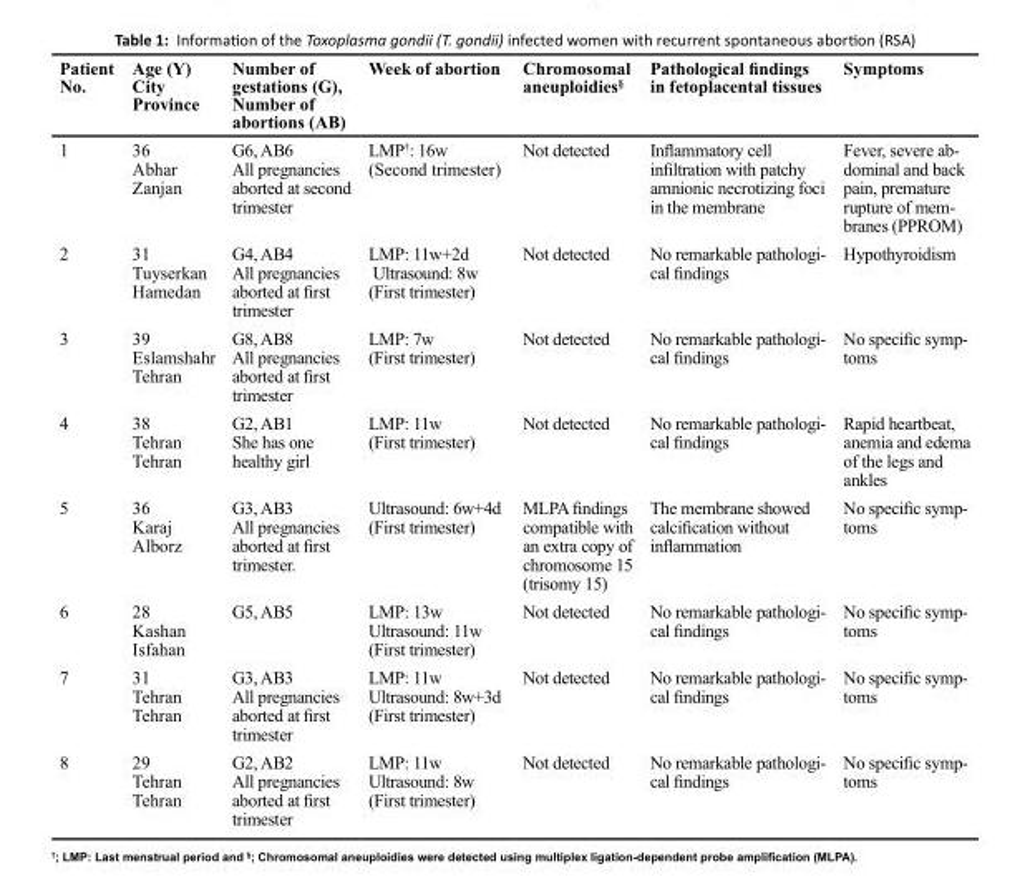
<table><thead><tr><td>Patient No.</td><td>Age (Y) City Province</td><td>Number of gestations (G), Number of abortions (AB)</td><td>Week of abortion</td><td>Chromosomal aneuploidies<sup>§</sup></td><td>Pathological findings in fetoplacental tissues</td><td>Symptoms</td></tr></thead><tbody><tr><td>1</td><td>36 Abhar Zanjan</td><td>G6, AB6 All pregnancies aborted at second trimester</td><td>LMP<sup>†</sup>: 16w (Second trimester)</td><td>Not detected</td><td>Inflammatory cell infiltration with patchy amnionic necrotizing foci in the membrane</td><td>Fever, severe ab- dominal and back pain, premature rupture of mem- branes (PPROM)</td></tr><tr><td>2</td><td>31 Tuyserkan Hamedan</td><td>G4, AB4 All pregnancies aborted at first trimester</td><td>LMP: 11w+2d Ultrasound: 8w (First trimester)</td><td>Not detected</td><td>No remarkable pathologi- cal findings</td><td>Hypothyroidism</td></tr><tr><td>3</td><td>39 Eslamshahr Tehran</td><td>G8, AB8 All pregnancies aborted at first trimester</td><td>LMP: 7w (First trimester)</td><td>Not detected</td><td>No remarkable pathologi- cal findings</td><td>No specific symp- toms</td></tr><tr><td>4</td><td>38 Tehran Tehran</td><td>G2, AB1 She has one healthy girl</td><td>LMP: 11w (First trimester)</td><td>Not detected</td><td>No remarkable pathologi- cal findings</td><td>Rapid heartbeat, anemia and edema of the legs and ankles</td></tr><tr><td>5</td><td>36 Karaj Alborz</td><td>G3, AB3 All pregnancies aborted at first trimester.</td><td>Ultrasound: 6w+4d (First trimester)</td><td>MLPA findings compatible with an extra copy of chromosome 15 (trisomy 15)</td><td>The membrane showed calcification without inflammation</td><td>No specific symp- toms</td></tr><tr><td>6</td><td>28 Kashan Isfahan</td><td>G5, AB5</td><td>LMP: 13w Ultrasound: 11w (First trimester)</td><td>Not detected</td><td>No remarkable pathologi- cal findings</td><td>No specific symp- toms</td></tr><tr><td>7</td><td>31 Tehran Tehran</td><td>G3, AB3 All pregnancies aborted at first trimester</td><td>LMP: 11w Ultrasound: 8w+3d (First trimester)</td><td>Not detected</td><td>No remarkable pathologi- cal findings</td><td>No specific symp- toms</td></tr><tr><td>8</td><td>29 Tehran Tehran</td><td>G2, AB2 All pregnancies aborted at first trimester</td><td>LMP: 11w Ultrasound: 8w (First trimester)</td><td>Not detected</td><td>No remarkable pathologi- cal findings</td><td>No specific symp- toms</td></tr></tbody></table>